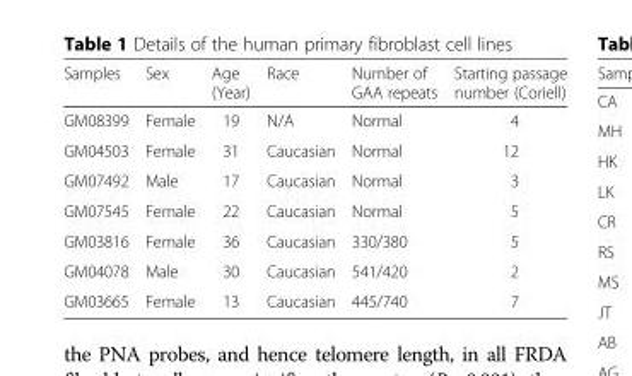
<table><thead><tr><td>Samples</td><td>Sex</td><td>Age (Year)</td><td>Race</td><td>Number of GAA repeats</td><td>Starting passage number (Coriell)</td></tr></thead><tbody><tr><td>GM08399</td><td>Female</td><td>19</td><td>N/A</td><td>Normal</td><td>4</td></tr><tr><td>GM04503</td><td>Female</td><td>31</td><td>Caucasian</td><td>Normal</td><td>12</td></tr><tr><td>GM07492</td><td>Male</td><td>17</td><td>Caucasian</td><td>Normal</td><td>3</td></tr><tr><td>GM07545</td><td>Female</td><td>22</td><td>Caucasian</td><td>Normal</td><td>5</td></tr><tr><td>GM03816</td><td>Female</td><td>36</td><td>Caucasian</td><td>330/380</td><td>5</td></tr><tr><td>GM04078</td><td>Male</td><td>30</td><td>Caucasian</td><td>541/420</td><td>2</td></tr><tr><td>GM03665</td><td>Female</td><td>13</td><td>Caucasian</td><td>445/740</td><td>7</td></tr></tbody></table>